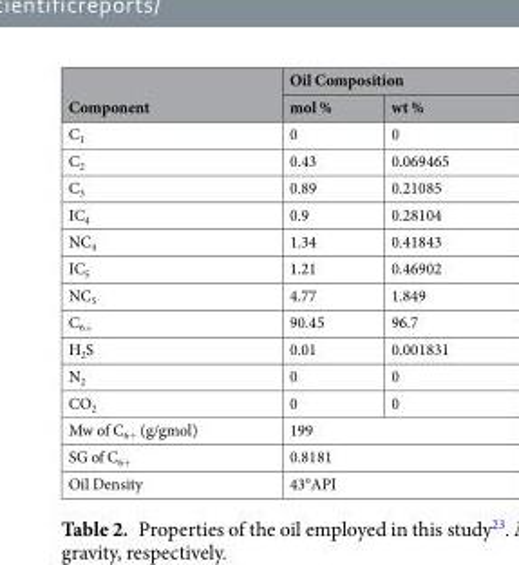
<table><thead><tr><td rowspan="2">Component</td><td colspan="2">Oil Composition</td></tr><tr><td>mol %</td><td>wt %</td></tr></thead><tbody><tr><td>C<sub>1</sub></td><td>0</td><td>0</td></tr><tr><td>C<sub>2</sub></td><td>0.43</td><td>0.069465</td></tr><tr><td>C<sub>3</sub></td><td>0.89</td><td>0.21085</td></tr><tr><td>IC<sub>4</sub></td><td>0.9</td><td>0.28104</td></tr><tr><td>NC<sub>4</sub></td><td>1.34</td><td>0.41843</td></tr><tr><td>IC<sub>5</sub></td><td>1.21</td><td>0.46902</td></tr><tr><td>NC<sub>5</sub></td><td>4.77</td><td>1.849</td></tr><tr><td>C<sub>6+</sub></td><td>90.45</td><td>96.7</td></tr><tr><td>H<sub>2</sub>S</td><td>0.01</td><td>0.001831</td></tr><tr><td>N<sub>2</sub></td><td>0</td><td>0</td></tr><tr><td>CO<sub>2</sub></td><td>0</td><td>0</td></tr><tr><td>Mw of C<sub>6+</sub> (g/gmol)</td><td colspan="2">199</td></tr><tr><td>SG of C<sub>6+</sub></td><td colspan="2">0.8181</td></tr><tr><td>Oil Density</td><td colspan="2">43°API</td></tr></tbody></table>